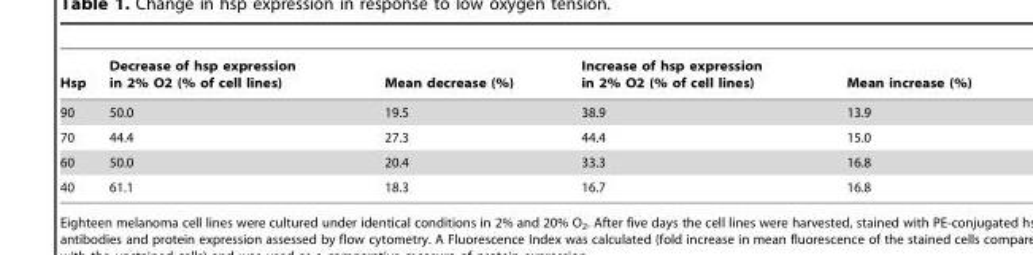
<table><thead><tr><td>Hsp</td><td>Decrease of hsp expression in 2% O2 (% of cell lines)</td><td>Mean decrease (%)</td><td>Increase of hsp expression in 2% O2 (% of cell lines)</td><td>Mean increase (%)</td></tr></thead><tbody><tr><td>90</td><td>50.0</td><td>19.5</td><td>38.9</td><td>13.9</td></tr><tr><td>70</td><td>44.4</td><td>27.3</td><td>44.4</td><td>15.0</td></tr><tr><td>60</td><td>50.0</td><td>20.4</td><td>33.3</td><td>16.8</td></tr><tr><td>40</td><td>61.1</td><td>18.3</td><td>16.7</td><td>16.8</td></tr></tbody></table>